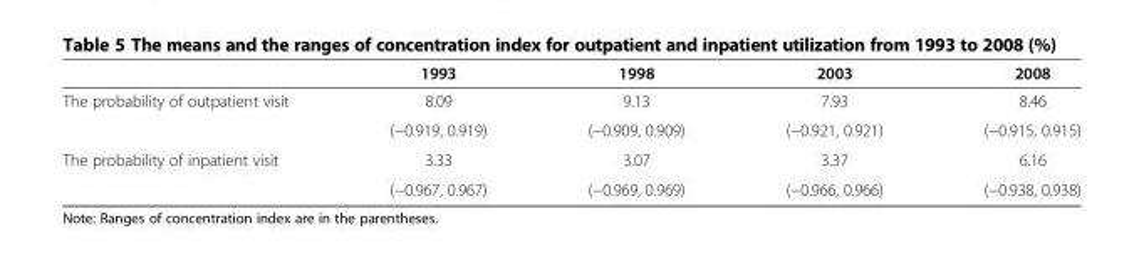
<table><thead><tr><td></td><td>1993</td><td>1998</td><td>2003</td><td>2008</td></tr></thead><tbody><tr><td rowspan="2">The probability of outpatient visit</td><td>8.09</td><td>9.13</td><td>7.93</td><td>8.46</td></tr><tr><td>(−0.919, 0.919)</td><td>(−0.909, 0.909)</td><td>(−0.921, 0.921)</td><td>(−0.915, 0.915)</td></tr><tr><td rowspan="2">The probability of inpatient visit</td><td>3.33</td><td>3.07</td><td>3.37</td><td>6.16</td></tr><tr><td>(−0.967, 0.967)</td><td>(−0.969, 0.969)</td><td>(−0.966, 0.966)</td><td>(−0.938, 0.938)</td></tr></tbody></table>